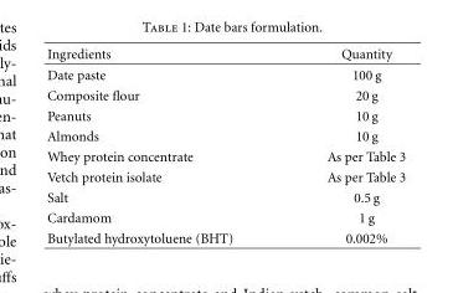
<table><thead><tr><td>Ingredients</td><td>Quantity</td></tr></thead><tbody><tr><td>Date paste</td><td>100 g</td></tr><tr><td>Composite flour</td><td>20 g</td></tr><tr><td>Peanuts</td><td>10 g</td></tr><tr><td>Almonds</td><td>10 g</td></tr><tr><td>Whey protein concentrate</td><td>As per Table 3</td></tr><tr><td>Vetch protein isolate</td><td>As per Table 3</td></tr><tr><td>Salt</td><td>0.5 g</td></tr><tr><td>Cardamom</td><td>1 g</td></tr><tr><td>Butylated hydroxytoluene (BHT)</td><td>0.002%</td></tr></tbody></table>